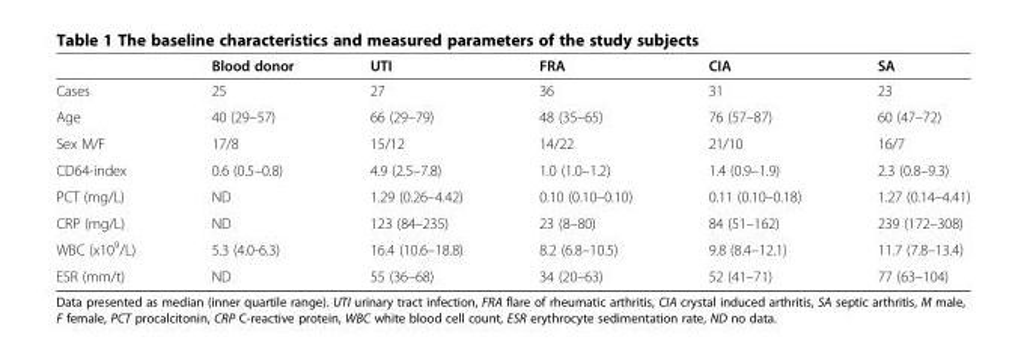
<table><thead><tr><td></td><td>Blood donor</td><td>UTI</td><td>FRA</td><td>CIA</td><td>SA</td></tr></thead><tbody><tr><td>Cases</td><td>25</td><td>27</td><td>36</td><td>31</td><td>23</td></tr><tr><td>Age</td><td>40 (29–57)</td><td>66 (29–79)</td><td>48 (35–65)</td><td>76 (57–87)</td><td>60 (47–72)</td></tr><tr><td>Sex M/F</td><td>17/8</td><td>15/12</td><td>14/22</td><td>21/10</td><td>16/7</td></tr><tr><td>CD64-index</td><td>0.6 (0.5–0.8)</td><td>4.9 (2.5–7.8)</td><td>1.0 (1.0–1.2)</td><td>1.4 (0.9–1.9)</td><td>2.3 (0.8–9.3)</td></tr><tr><td>PCT (mg/L)</td><td>ND</td><td>1.29 (0.26–4.42)</td><td>0.10 (0.10–0.10)</td><td>0.11 (0.10–0.18)</td><td>1.27 (0.14–4.41)</td></tr><tr><td>CRP (mg/L)</td><td>ND</td><td>123 (84–235)</td><td>23 (8–80)</td><td>84 (51–162)</td><td>239 (172–308)</td></tr><tr><td>WBC (x10<sup>9</sup>/L)</td><td>5.3 (4.0-6.3)</td><td>16.4 (10.6–18.8)</td><td>8.2 (6.8–10.5)</td><td>9.8 (8.4–12.1)</td><td>11.7 (7.8–13.4)</td></tr><tr><td>ESR (mm/t)</td><td>ND</td><td>55 (36–68)</td><td>34 (20–63)</td><td>52 (41–71)</td><td>77 (63–104)</td></tr></tbody></table>